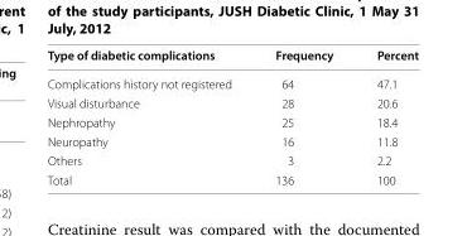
<table><thead><tr><td>Type of diabetic complications</td><td>Frequency</td><td>Percent</td></tr></thead><tbody><tr><td>Complications history not registered</td><td>64</td><td>47.1</td></tr><tr><td>Visual disturbance</td><td>28</td><td>20.6</td></tr><tr><td>Nephropathy</td><td>25</td><td>18.4</td></tr><tr><td>Neuropathy</td><td>16</td><td>11.8</td></tr><tr><td>Others</td><td>3</td><td>2.2</td></tr><tr><td>Total</td><td>136</td><td>100</td></tr></tbody></table>